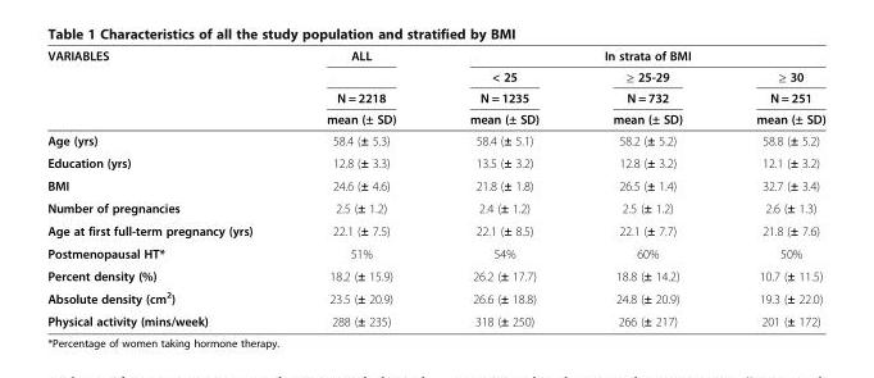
<table><thead><tr><td rowspan="4">VARIABLES</td><td rowspan="4">ALL N = 2218 mean (± SD)</td><td colspan="3">In strata of BMI</td></tr><tr><td rowspan="3">&lt; 25 N = 1235 mean (± SD)</td><td rowspan="3">≥ 25-29 N = 732 mean (± SD)</td><td rowspan="3">≥ 30 N = 251 mean (± SD)</td></tr><tr></tr><tr></tr></thead><tbody><tr><td>Age (yrs)</td><td>58.4 (± 5.3)</td><td>58.4 (± 5.1)</td><td>58.2 (± 5.2)</td><td>58.8 (± 5.2)</td></tr><tr><td>Education (yrs)</td><td>12.8 (± 3.3)</td><td>13.5 (± 3.2)</td><td>12.8 (± 3.2)</td><td>12.1 (± 3.2)</td></tr><tr><td>BMI</td><td>24.6 (± 4.6)</td><td>21.8 (± 1.8)</td><td>26.5 (± 1.4)</td><td>32.7 (± 3.4)</td></tr><tr><td>Number of pregnancies</td><td>2.5 (± 1.2)</td><td>2.4 (± 1.2)</td><td>2.5 (± 1.2)</td><td>2.6 (± 1.3)</td></tr><tr><td>Age at first full-term pregnancy (yrs)</td><td>22.1 (± 7.5)</td><td>22.1 (± 8.5)</td><td>22.1 (± 7.7)</td><td>21.8 (± 7.6)</td></tr><tr><td>Postmenopausal HT*</td><td>51%</td><td>54%</td><td>60%</td><td>50%</td></tr><tr><td>Percent density (%)</td><td>18.2 (± 15.9)</td><td>26.2 (± 17.7)</td><td>18.8 (± 14.2)</td><td>10.7 (± 11.5)</td></tr><tr><td>Absolute density (cm<sup>2</sup>)</td><td>23.5 (± 20.9)</td><td>26.6 (± 18.8)</td><td>24.8 (± 20.9)</td><td>19.3 (± 22.0)</td></tr><tr><td>Physical activity (mins/week)</td><td>288 (± 235)</td><td>318 (± 250)</td><td>266 (± 217)</td><td>201 (± 172)</td></tr></tbody></table>